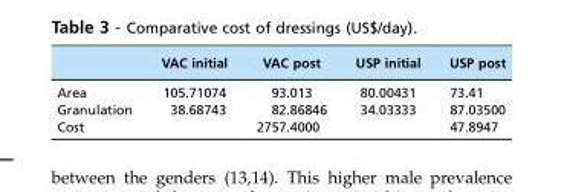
<table><thead><tr><td></td><td>VAC initial</td><td>VAC post</td><td>USP initial</td><td>USP post</td></tr></thead><tbody><tr><td>Area</td><td>105.71074</td><td>93.013</td><td>80.00431</td><td>73.41</td></tr><tr><td>Granulation</td><td>38.68743</td><td>82.86846</td><td>34.03333</td><td>87.03500</td></tr><tr><td>Cost</td><td></td><td>2757.4000</td><td></td><td>47.8947</td></tr></tbody></table>